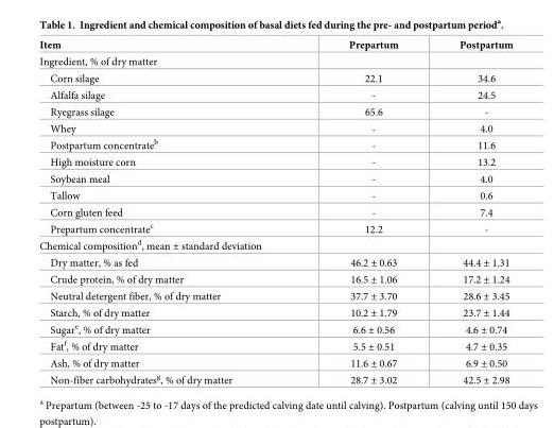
<table><thead><tr><td>Item</td><td>Prepartum</td><td>Postpartum</td></tr></thead><tbody><tr><td colspan="3">Ingredient, % of dry matter</td></tr><tr><td>Corn silage</td><td>22.1</td><td>34.6</td></tr><tr><td>Alfalfa silage</td><td>-</td><td>24.5</td></tr><tr><td>Ryegrass silage</td><td>65.6</td><td>-</td></tr><tr><td>Whey</td><td>-</td><td>4.0</td></tr><tr><td>Postpartum concentrate<sup>b</sup></td><td>-</td><td>11.6</td></tr><tr><td>High moisture corn</td><td>-</td><td>13.2</td></tr><tr><td>Soybean meal</td><td>-</td><td>4.0</td></tr><tr><td>Tallow</td><td>-</td><td>0.6</td></tr><tr><td>Corn gluten feed</td><td>-</td><td>7.4</td></tr><tr><td>Prepartum concentrate<sup>c</sup></td><td>12.2</td><td>-</td></tr><tr><td colspan="3">Chemical composition<sup>d</sup>, mean ± standard deviation</td></tr><tr><td>Dry matter, % as fed</td><td>46.2 ± 0.63</td><td>44.4 ± 1.31</td></tr><tr><td>Crude protein, % of dry matter</td><td>16.5 ± 1.06</td><td>17.2 ± 1.24</td></tr><tr><td>Neutral detergent fiber, % of dry matter</td><td>37.7 ± 3.70</td><td>28.6 ± 3.45</td></tr><tr><td>Starch, % of dry matter</td><td>10.2 ± 1.79</td><td>23.7 ± 1.44</td></tr><tr><td>Sugar<sup>e</sup>, % of dry matter</td><td>6.6 ± 0.56</td><td>4.6 ± 0.74</td></tr><tr><td>Fat<sup>f</sup>, % of dry matter</td><td>5.5 ± 0.51</td><td>4.7 ± 0.35</td></tr><tr><td>Ash, % of dry matter</td><td>11.6 ± 0.67</td><td>6.9 ± 0.50</td></tr><tr><td>Non-fiber carbohydrates<sup>g</sup>, % of dry matter</td><td>28.7 ± 3.02</td><td>42.5 ± 2.98</td></tr></tbody></table>